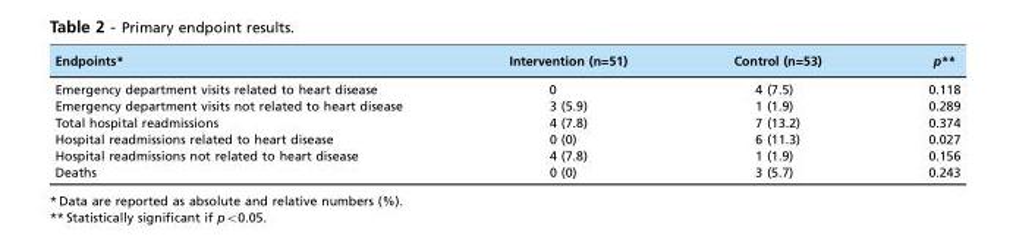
<table><thead><tr><td>Endpoints*</td><td>Intervention (n=51)</td><td>Control (n=53)</td><td>p**</td></tr></thead><tbody><tr><td>Emergency department visits related to heart disease</td><td>0</td><td>4 (7.5)</td><td>0.118</td></tr><tr><td>Emergency department visits not related to heart disease</td><td>3 (5.9)</td><td>1 (1.9)</td><td>0.289</td></tr><tr><td>Total hospital readmissions</td><td>4 (7.8)</td><td>7 (13.2)</td><td>0.374</td></tr><tr><td>Hospital readmissions related to heart disease</td><td>0 (0)</td><td>6 (11.3)</td><td>0.027</td></tr><tr><td>Hospital readmissions not related to heart disease</td><td>4 (7.8)</td><td>1 (1.9)</td><td>0.156</td></tr><tr><td>Deaths</td><td>0 (0)</td><td>3 (5.7)</td><td>0.243</td></tr></tbody></table>